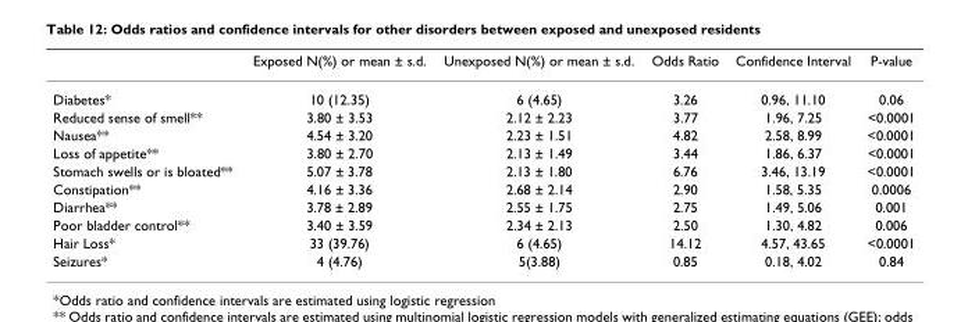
<table><thead><tr><td></td><td>Exposed N(%) or mean ± s.d.</td><td>Unexposed N(%) or mean ± s.d.</td><td>Odds Ratio</td><td>Confidence Interval</td><td>P-value</td></tr></thead><tbody><tr><td>Diabetes*</td><td>10 (12.35)</td><td>6 (4.65)</td><td>3.26</td><td>0.96, 11.10</td><td>0.06</td></tr><tr><td>Reduced sense of smell**</td><td>3.80 ± 3.53</td><td>2.12 ± 2.23</td><td>3.77</td><td>1.96, 7.25</td><td>&lt;0.0001</td></tr><tr><td>Nausea**</td><td>4.54 ± 3.20</td><td>2.23 ± 1.51</td><td>4.82</td><td>2.58, 8.99</td><td>&lt;0.0001</td></tr><tr><td>Loss of appetite**</td><td>3.80 ± 2.70</td><td>2.13 ± 1.49</td><td>3.44</td><td>1.86, 6.37</td><td>&lt;0.0001</td></tr><tr><td>Stomach swells or is bloated**</td><td>5.07 ± 3.78</td><td>2.13 ± 1.80</td><td>6.76</td><td>3.46, 13.19</td><td>&lt;0.0001</td></tr><tr><td>Constipation**</td><td>4.16 ± 3.36</td><td>2.68 ± 2.14</td><td>2.90</td><td>1.58, 5.35</td><td>0.0006</td></tr><tr><td>Diarrhea**</td><td>3.78 ± 2.89</td><td>2.55 ± 1.75</td><td>2.75</td><td>1.49, 5.06</td><td>0.001</td></tr><tr><td>Poor bladder control**</td><td>3.40 ± 3.59</td><td>2.34 ± 2.13</td><td>2.50</td><td>1.30, 4.82</td><td>0.006</td></tr><tr><td>Hair Loss*</td><td>33 (39.76)</td><td>6 (4.65)</td><td>14.12</td><td>4.57, 43.65</td><td>&lt;0.0001</td></tr><tr><td>Seizures*</td><td>4 (4.76)</td><td>5(3.88)</td><td>0.85</td><td>0.18, 4.02</td><td>0.84</td></tr></tbody></table>